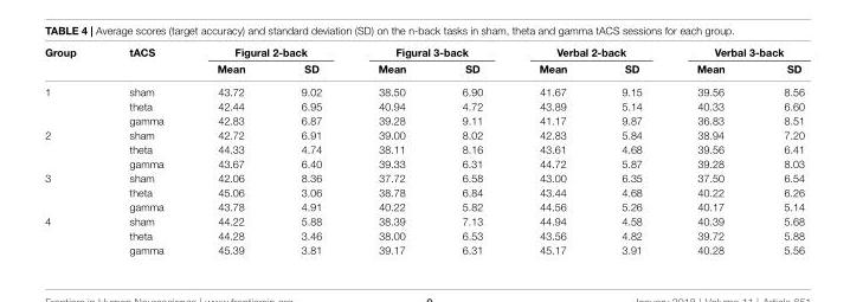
<table><thead><tr><td rowspan="2">Group</td><td rowspan="2">tACS</td><td colspan="2">Figural 2-back</td><td colspan="2">Figural 3-back</td><td colspan="2">Verbal 2-back</td><td colspan="2">Verbal 3-back</td></tr><tr><td>Mean</td><td>SD</td><td>Mean</td><td>SD</td><td>Mean</td><td>SD</td><td>Mean</td><td>SD</td></tr></thead><tbody><tr><td rowspan="3">1</td><td>sham</td><td>43.72</td><td>9.02</td><td>38.50</td><td>6.90</td><td>41.67</td><td>9.15</td><td>39.56</td><td>8.56</td></tr><tr><td>theta</td><td>42.44</td><td>6.95</td><td>40.94</td><td>4.72</td><td>43.89</td><td>5.14</td><td>40.33</td><td>6.60</td></tr><tr><td>gamma</td><td>42.83</td><td>6.87</td><td>39.28</td><td>9.11</td><td>41.17</td><td>9.87</td><td>36.83</td><td>8.51</td></tr><tr><td rowspan="3">2</td><td>sham</td><td>42.72</td><td>6.91</td><td>39.00</td><td>8.02</td><td>42.83</td><td>5.84</td><td>38.94</td><td>7.20</td></tr><tr><td>theta</td><td>44.33</td><td>4.74</td><td>38.11</td><td>8.16</td><td>43.61</td><td>4.68</td><td>39.56</td><td>6.41</td></tr><tr><td>gamma</td><td>43.67</td><td>6.40</td><td>39.33</td><td>6.31</td><td>44.72</td><td>5.87</td><td>39.28</td><td>8.03</td></tr><tr><td rowspan="3">3</td><td>sham</td><td>42.06</td><td>8.36</td><td>37.72</td><td>6.58</td><td>43.00</td><td>6.35</td><td>37.50</td><td>6.54</td></tr><tr><td>theta</td><td>45.06</td><td>3.06</td><td>38.78</td><td>6.84</td><td>43.44</td><td>4.68</td><td>40.22</td><td>6.26</td></tr><tr><td>gamma</td><td>43.78</td><td>4.91</td><td>40.22</td><td>5.82</td><td>44.56</td><td>5.26</td><td>40.17</td><td>5.14</td></tr><tr><td rowspan="3">4</td><td>sham</td><td>44.22</td><td>5.88</td><td>38.39</td><td>7.13</td><td>44.94</td><td>4.58</td><td>40.39</td><td>5.68</td></tr><tr><td>theta</td><td>44.28</td><td>3.46</td><td>38.00</td><td>6.53</td><td>43.56</td><td>4.82</td><td>39.72</td><td>5.88</td></tr><tr><td>gamma</td><td>45.39</td><td>3.81</td><td>39.17</td><td>6.31</td><td>45.17</td><td>3.91</td><td>40.28</td><td>5.56</td></tr></tbody></table>